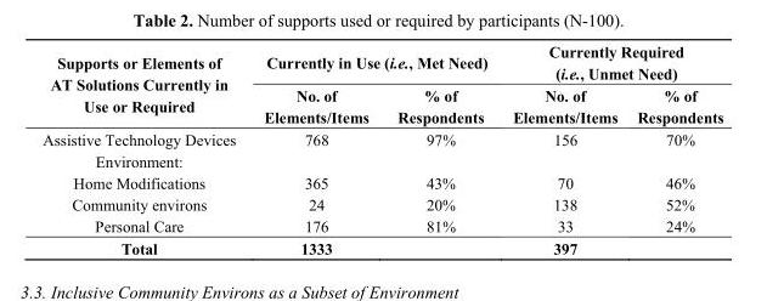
<table><thead><tr><td rowspan="2">Supports or Elements of AT Solutions Currently in Use or Required</td><td colspan="2">Currently in Use (i.e., Met Need)</td><td colspan="2">Currently Required (i.e., Unmet Need)</td></tr><tr><td>No. of Elements/Items</td><td>% of Respondents</td><td>No. of Elements/Items</td><td>% of Respondents</td></tr></thead><tbody><tr><td>Assistive Technology Devices</td><td>768</td><td>97%</td><td>156</td><td>70%</td></tr><tr><td colspan="5">Environment:</td></tr><tr><td>Home Modifications</td><td>365</td><td>43%</td><td>70</td><td>46%</td></tr><tr><td>Community environs</td><td>24</td><td>20%</td><td>138</td><td>52%</td></tr><tr><td>Personal Care</td><td>176</td><td>81%</td><td>33</td><td>24%</td></tr><tr><td>Total</td><td>1333</td><td></td><td>397</td><td></td></tr></tbody></table>